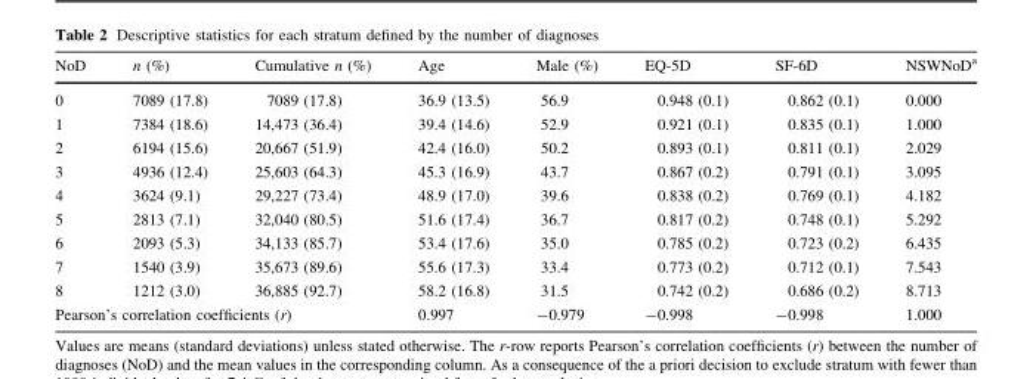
<table><thead><tr><td>NoD</td><td>n (%)</td><td>Cumulative n (%)</td><td>Age</td><td>Male (%)</td><td>EQ-5D</td><td>SF-6D</td><td>NSWNoD<sup>a</sup></td></tr></thead><tbody><tr><td>0</td><td>7089 (17.8)</td><td>7089 (17.8)</td><td>36.9 (13.5)</td><td>56.9</td><td>0.948 (0.1)</td><td>0.862 (0.1)</td><td>0.000</td></tr><tr><td>1</td><td>7384 (18.6)</td><td>14,473 (36.4)</td><td>39.4 (14.6)</td><td>52.9</td><td>0.921 (0.1)</td><td>0.835 (0.1)</td><td>1.000</td></tr><tr><td>2</td><td>6194 (15.6)</td><td>20,667 (51.9)</td><td>42.4 (16.0)</td><td>50.2</td><td>0.893 (0.1)</td><td>0.811 (0.1)</td><td>2.029</td></tr><tr><td>3</td><td>4936 (12.4)</td><td>25,603 (64.3)</td><td>45.3 (16.9)</td><td>43.7</td><td>0.867 (0.2)</td><td>0.791 (0.1)</td><td>3.095</td></tr><tr><td>4</td><td>3624 (9.1)</td><td>29,227 (73.4)</td><td>48.9 (17.0)</td><td>39.6</td><td>0.838 (0.2)</td><td>0.769 (0.1)</td><td>4.182</td></tr><tr><td>5</td><td>2813 (7.1)</td><td>32,040 (80.5)</td><td>51.6 (17.4)</td><td>36.7</td><td>0.817 (0.2)</td><td>0.748 (0.1)</td><td>5.292</td></tr><tr><td>6</td><td>2093 (5.3)</td><td>34,133 (85.7)</td><td>53.4 (17.6)</td><td>35.0</td><td>0.785 (0.2)</td><td>0.723 (0.2)</td><td>6.435</td></tr><tr><td>7</td><td>1540 (3.9)</td><td>35,673 (89.6)</td><td>55.6 (17.3)</td><td>33.4</td><td>0.773 (0.2)</td><td>0.712 (0.1)</td><td>7.543</td></tr><tr><td>8</td><td>1212 (3.0)</td><td>36,885 (92.7)</td><td>58.2 (16.8)</td><td>31.5</td><td>0.742 (0.2)</td><td>0.686 (0.2)</td><td>8.713</td></tr><tr><td colspan="3">Pearson’s correlation coefficients (r)</td><td>0.997</td><td>-0.979</td><td>-0.998</td><td>-0.998</td><td>1.000</td></tr></tbody></table>